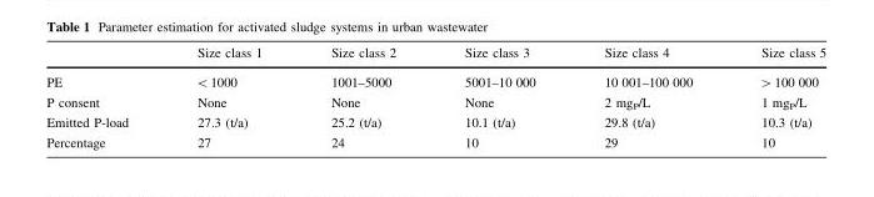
<table><thead><tr><td></td><td>Size class 1</td><td>Size class 2</td><td>Size class 3</td><td>Size class 4</td><td>Size class 5</td></tr></thead><tbody><tr><td>PE</td><td>&lt;1000</td><td>1001–5000</td><td>5001–10 000</td><td>10 001–100 000</td><td>&gt;100 000</td></tr><tr><td>P consent</td><td>None</td><td>None</td><td>None</td><td>2 mg<sub>P</sub>/L</td><td>1 mg<sub>P</sub>/L</td></tr><tr><td>Emitted P-load</td><td>27.3 (t/a)</td><td>25.2 (t/a)</td><td>10.1 (t/a)</td><td>29.8 (t/a)</td><td>10.3 (t/a)</td></tr><tr><td>Percentage</td><td>27</td><td>24</td><td>10</td><td>29</td><td>10</td></tr></tbody></table>